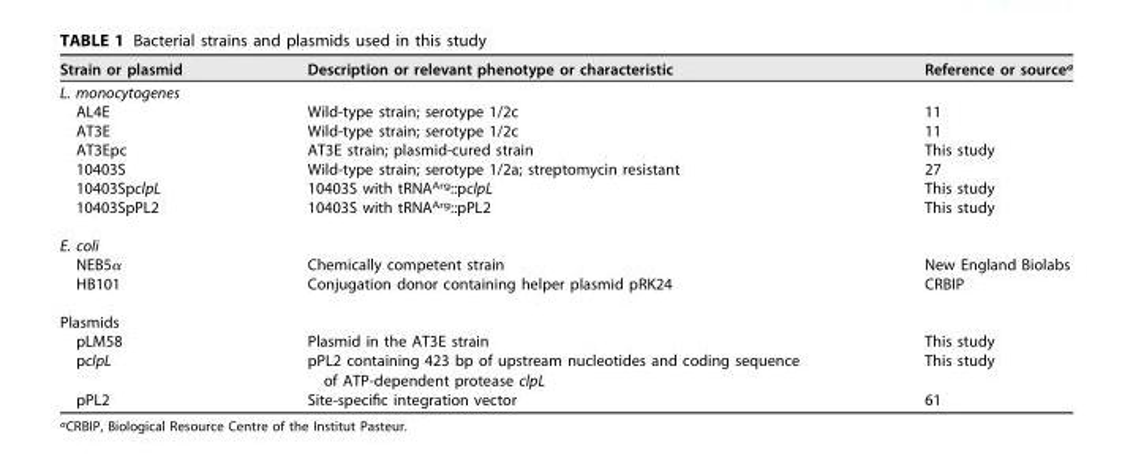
<table><thead><tr><td>Strain or plasmid</td><td>Description or relevant phenotype or characteristic</td><td>Reference or source<sup>a</sup></td></tr></thead><tbody><tr><td colspan="3">L. monocytogenes</td></tr><tr><td>AL4E</td><td>Wild-type strain; serotype 1/2c</td><td>11</td></tr><tr><td>AT3E</td><td>Wild-type strain; serotype 1/2c</td><td>11</td></tr><tr><td>AT3Epc</td><td>AT3E strain; plasmid-cured strain</td><td>This study</td></tr><tr><td>10403S</td><td>Wild-type strain; serotype 1/2a; streptomycin resistant</td><td>27</td></tr><tr><td>10403SpclpL</td><td>10403S with tRNA<sup>Arg</sup>::pclpL</td><td>This study</td></tr><tr><td>10403SpPL2</td><td>10403S with tRNA<sup>Arg</sup>::pPL2</td><td>This study</td></tr><tr><td colspan="3">E. coli</td></tr><tr><td>NEB5α</td><td>Chemically competent strain</td><td>New England Biolabs</td></tr><tr><td>HB101</td><td>Conjugation donor containing helper plasmid pRK24</td><td>CRBIP</td></tr><tr><td colspan="3">Plasmids</td></tr><tr><td>pLM58</td><td>Plasmid in the AT3E strain</td><td>This study</td></tr><tr><td>pclpL</td><td>pPL2 containing 423 bp of upstream nucleotides and coding sequence of ATP-dependent protease clpL</td><td>This study</td></tr><tr><td>pPL2</td><td>Site-specific integration vector</td><td>61</td></tr></tbody></table>